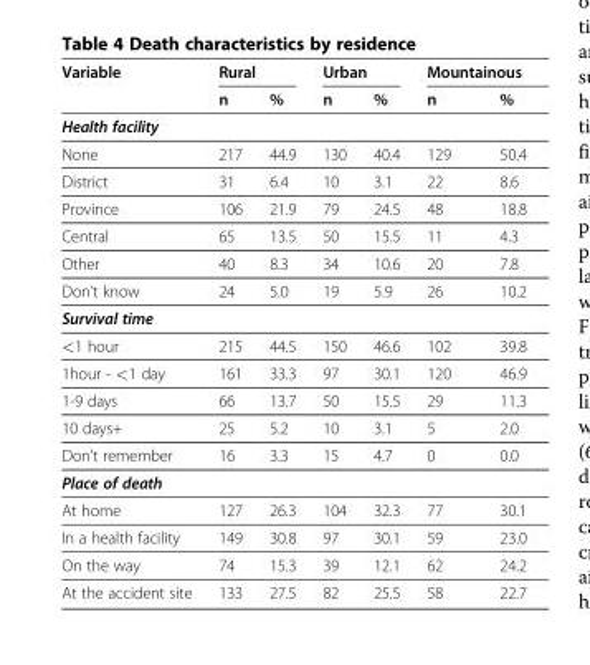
<table><thead><tr><td rowspan="2">Variable</td><td colspan="2">Rural</td><td colspan="2">Urban</td><td colspan="2">Mountainous</td></tr><tr><td>n</td><td>%</td><td>n</td><td>%</td><td>n</td><td>%</td></tr></thead><tbody><tr><td colspan="7">Health facility</td></tr><tr><td>None</td><td>217</td><td>44.9</td><td>130</td><td>40.4</td><td>129</td><td>50.4</td></tr><tr><td>District</td><td>31</td><td>6.4</td><td>10</td><td>3.1</td><td>22</td><td>8.6</td></tr><tr><td>Province</td><td>106</td><td>21.9</td><td>79</td><td>24.5</td><td>48</td><td>18.8</td></tr><tr><td>Central</td><td>65</td><td>13.5</td><td>50</td><td>15.5</td><td>11</td><td>4.3</td></tr><tr><td>Other</td><td>40</td><td>8.3</td><td>34</td><td>10.6</td><td>20</td><td>7.8</td></tr><tr><td>Don’t know</td><td>24</td><td>5.0</td><td>19</td><td>5.9</td><td>26</td><td>10.2</td></tr><tr><td colspan="7">Survival time</td></tr><tr><td>&lt;1 hour</td><td>215</td><td>44.5</td><td>150</td><td>46.6</td><td>102</td><td>39.8</td></tr><tr><td>1hour - &lt;1 day</td><td>161</td><td>33.3</td><td>97</td><td>30.1</td><td>120</td><td>46.9</td></tr><tr><td>1-9 days</td><td>66</td><td>13.7</td><td>50</td><td>15.5</td><td>29</td><td>11.3</td></tr><tr><td>10 days+</td><td>25</td><td>5.2</td><td>10</td><td>3.1</td><td>5</td><td>2.0</td></tr><tr><td>Don’t remember</td><td>16</td><td>3.3</td><td>15</td><td>4.7</td><td>0</td><td>0.0</td></tr><tr><td colspan="7">Place of death</td></tr><tr><td>At home</td><td>127</td><td>26.3</td><td>104</td><td>32.3</td><td>77</td><td>30.1</td></tr><tr><td>In a health facility</td><td>149</td><td>30.8</td><td>97</td><td>30.1</td><td>59</td><td>23.0</td></tr><tr><td>On the way</td><td>74</td><td>15.3</td><td>39</td><td>12.1</td><td>62</td><td>24.2</td></tr><tr><td>At the accident site</td><td>133</td><td>27.5</td><td>82</td><td>25.5</td><td>58</td><td>22.7</td></tr></tbody></table>